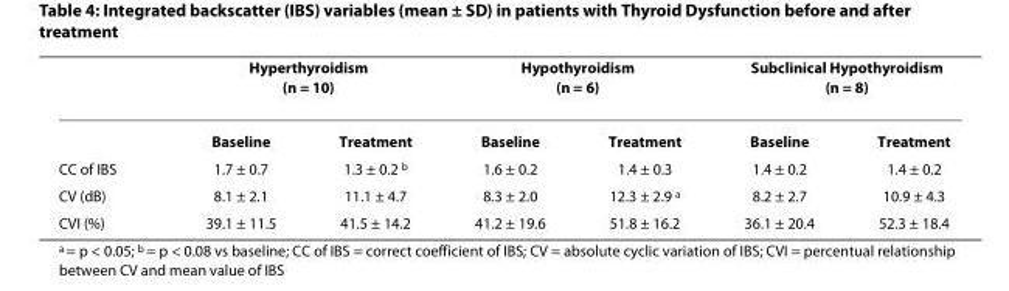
<table><thead><tr><td rowspan="2"></td><td colspan="2">Hyperthyroidism (n = 10)</td><td colspan="2">Hypothyroidism (n = 6)</td><td colspan="2">Subclinical Hypothyroidism (n = 8)</td></tr><tr><td>Baseline</td><td>Treatment</td><td>Baseline</td><td>Treatment</td><td>Baseline</td><td>Treatment</td></tr></thead><tbody><tr><td>CC of IBS</td><td>1.7 ± 0.7</td><td>1.3 ± 0.2 <sup>b</sup></td><td>1.6 ± 0.2</td><td>1.4 ± 0.3</td><td>1.4 ± 0.2</td><td>1.4 ± 0.2</td></tr><tr><td>CV (dB)</td><td>8.1 ± 2.1</td><td>11.1 ± 4.7</td><td>8.3 ± 2.0</td><td>12.3 ± 2.9 <sup>a</sup></td><td>8.2 ± 2.7</td><td>10.9 ± 4.3</td></tr><tr><td>CVI (%)</td><td>39.1 ± 11.5</td><td>41.5 ± 14.2</td><td>41.2 ± 19.6</td><td>51.8 ± 16.2</td><td>36.1 ± 20.4</td><td>52.3 ± 18.4</td></tr></tbody></table>